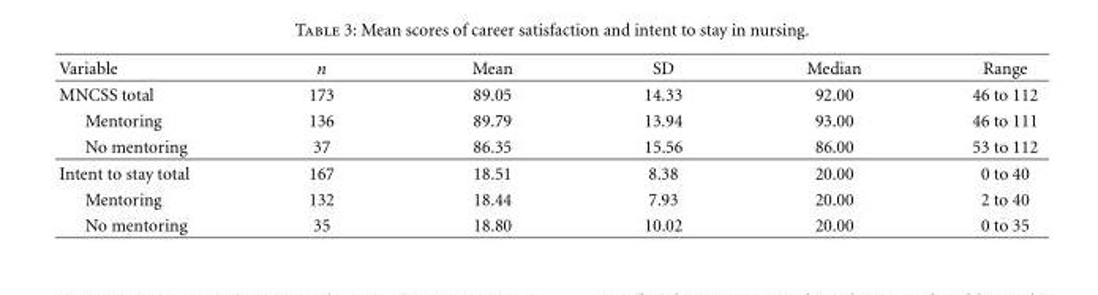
<table><thead><tr><td>Variable</td><td>n</td><td>Mean</td><td>SD</td><td>Median</td><td>Range</td></tr></thead><tbody><tr><td>MNCSS total</td><td>173</td><td>89.05</td><td>14.33</td><td>92.00</td><td>46 to 112</td></tr><tr><td>Mentoring</td><td>136</td><td>89.79</td><td>13.94</td><td>93.00</td><td>46 to 111</td></tr><tr><td>No mentoring</td><td>37</td><td>86.35</td><td>15.56</td><td>86.00</td><td>53 to 112</td></tr><tr><td>Intent to stay total</td><td>167</td><td>18.51</td><td>8.38</td><td>20.00</td><td>0 to 40</td></tr><tr><td>Mentoring</td><td>132</td><td>18.44</td><td>7.93</td><td>20.00</td><td>2 to 40</td></tr><tr><td>No mentoring</td><td>35</td><td>18.80</td><td>10.02</td><td>20.00</td><td>0 to 35</td></tr></tbody></table>